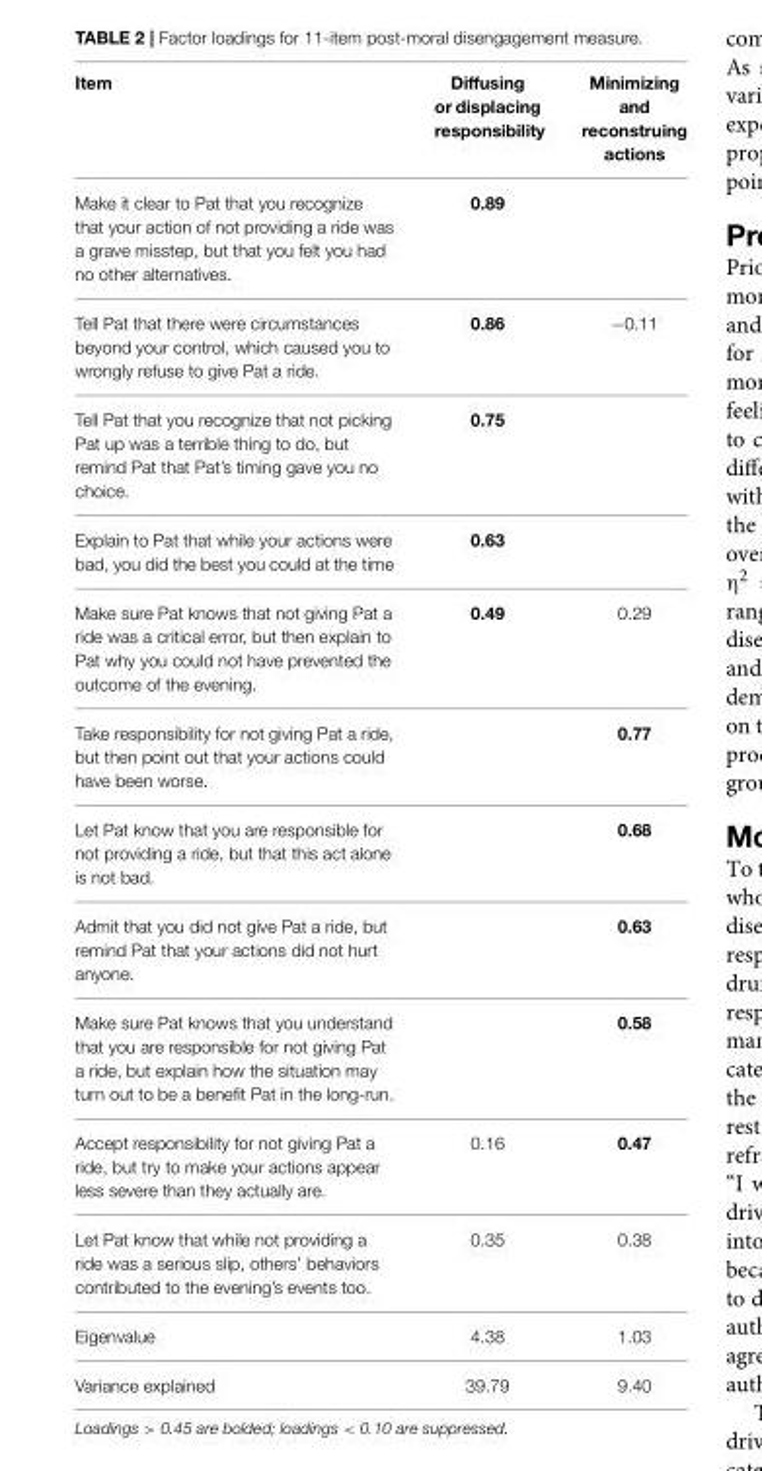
<table><thead><tr><td>Item</td><td>Diffusing or displacing responsibility</td><td>Minimizing and reconstruing actions</td></tr></thead><tbody><tr><td>Make it clear to Pat that you recognize that your action of not providing a ride was a grave misstep, but that you felt you had no other alternatives.</td><td>0.89</td><td></td></tr><tr><td>Tell Pat that there were circumstances beyond your control, which caused you to wrongly refuse to give Pat a ride.</td><td>0.86</td><td>−0.11</td></tr><tr><td>Tell Pat that you recognize that not picking Pat up was a terrible thing to do, but remind Pat that Pat’s timing gave you no choice.</td><td>0.75</td><td></td></tr><tr><td>Explain to Pat that while your actions were bad, you did the best you could at the time</td><td>0.63</td><td></td></tr><tr><td>Make sure Pat knows that not giving Pat a ride was a critical error, but then explain to Pat why you could not have prevented the outcome of the evening.</td><td>0.49</td><td>0.29</td></tr><tr><td>Take responsibility for not giving Pat a ride, but then point out that your actions could have been worse.</td><td></td><td>0.77</td></tr><tr><td>Let Pat know that you are responsible for not providing a ride, but that this act alone is not bad.</td><td></td><td>0.68</td></tr><tr><td>Admit that you did not give Pat a ride, but remind Pat that your actions did not hurt anyone.</td><td></td><td>0.63</td></tr><tr><td>Make sure Pat knows that you understand that you are responsible for not giving Pat a ride, but explain how the situation may turn out to be a benefit Pat in the long-run.</td><td></td><td>0.58</td></tr><tr><td>Accept responsibility for not giving Pat a ride, but try to make your actions appear less severe than they actually are.</td><td>0.16</td><td>0.47</td></tr><tr><td>Let Pat know that while not providing a ride was a serious slip, others’ behaviors contributed to the evening’s events too.</td><td>0.35</td><td>0.38</td></tr><tr><td>Eigenvalue</td><td>4.38</td><td>1.03</td></tr><tr><td>Variance explained</td><td>39.79</td><td>9.40</td></tr></tbody></table>